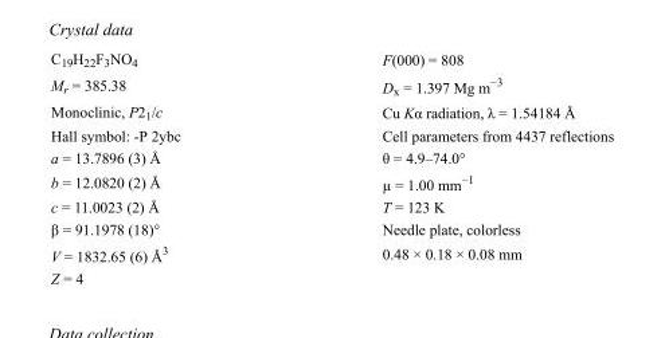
<table><tbody><tr><td>C<sub>19</sub>H<sub>22</sub>F<sub>3</sub>NO<sub>4</sub></td><td>F(000) = 808</td></tr><tr><td>M<sub>r</sub> = 385.38</td><td>D<sub>x</sub> = 1.397 Mg m<sup>−3</sup></td></tr><tr><td>Monoclinic, P2<sub>1</sub>/c</td><td>Cu Kα radiation, λ = 1.54184 Å</td></tr><tr><td>Hall symbol: -P 2ybc</td><td>Cell parameters from 4437 reflections</td></tr><tr><td>a = 13.7896 (3) Å</td><td>θ = 4.9–74.0°</td></tr><tr><td>b = 12.0820 (2) Å</td><td>µ = 1.00 mm<sup>−1</sup></td></tr><tr><td>c = 11.0023 (2) Å</td><td>T = 123 K</td></tr><tr><td>β = 91.1978 (18)°</td><td>Needle plate, colorless</td></tr><tr><td>V = 1832.65 (6) Å<sup>3</sup></td><td>0.48 × 0.18 × 0.08 mm</td></tr><tr><td>Z = 4</td><td></td></tr></tbody></table>